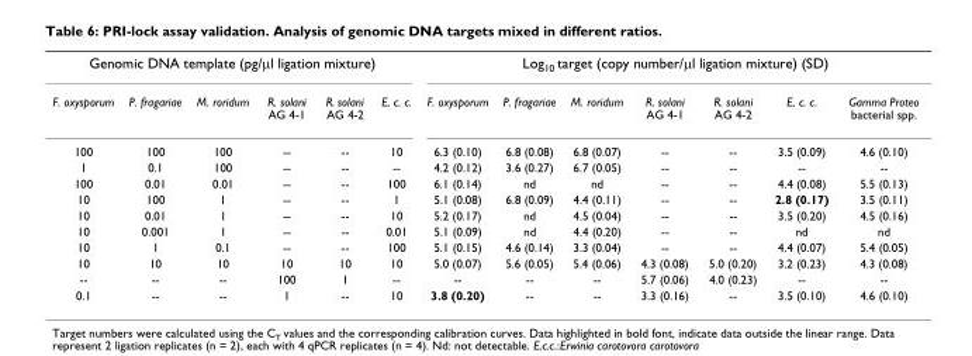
<table><tbody><tr><td colspan="6">Genomic DNA template (pg/μl ligation mixture)</td><td colspan="7">Log<sub>10</sub> target (copy number/μl ligation mixture) (SD)</td></tr><tr><td>F. oxysporum</td><td>P. fragariae</td><td>M. roridum</td><td>R. solani AG 4-1</td><td>R. solani AG 4-2</td><td>E. c. c.</td><td>F. oxysporum</td><td>P. fragariae</td><td>M. roridum</td><td>R. solani AG 4-1</td><td>R. solani AG 4-2</td><td>E. c. c.</td><td>Gamma Proteo bacterial spp.</td></tr><tr><td>100</td><td>100</td><td>100</td><td>--</td><td>--</td><td>10</td><td>6.3 (0.10)</td><td>6.8 (0.08)</td><td>6.8 (0.07)</td><td>--</td><td>--</td><td>3.5 (0.09)</td><td>4.6 (0.10)</td></tr><tr><td>1</td><td>0.1</td><td>100</td><td>--</td><td>--</td><td>--</td><td>4.2 (0.12)</td><td>3.6 (0.27)</td><td>6.7 (0.05)</td><td>--</td><td>--</td><td>--</td><td>--</td></tr><tr><td>100</td><td>0.01</td><td>0.01</td><td>--</td><td>--</td><td>100</td><td>6.1 (0.14)</td><td>nd</td><td>nd</td><td>--</td><td>--</td><td>4.4 (0.08)</td><td>5.5 (0.13)</td></tr><tr><td>10</td><td>100</td><td>1</td><td>--</td><td>--</td><td>1</td><td>5.1 (0.08)</td><td>6.8 (0.09)</td><td>4.4 (0.11)</td><td>--</td><td>--</td><td>2.8 (0.17)</td><td>3.5 (0.11)</td></tr><tr><td>10</td><td>0.01</td><td>1</td><td>--</td><td>--</td><td>10</td><td>5.2 (0.17)</td><td>nd</td><td>4.5 (0.04)</td><td>--</td><td>--</td><td>3.5 (0.20)</td><td>4.5 (0.16)</td></tr><tr><td>10</td><td>0.001</td><td>1</td><td>--</td><td>--</td><td>0.01</td><td>5.1 (0.09)</td><td>nd</td><td>4.4 (0.20)</td><td>--</td><td>--</td><td>nd</td><td>nd</td></tr><tr><td>10</td><td>1</td><td>0.1</td><td>--</td><td>--</td><td>100</td><td>5.1 (0.15)</td><td>4.6 (0.14)</td><td>3.3 (0.04)</td><td>--</td><td>--</td><td>4.4 (0.07)</td><td>5.4 (0.05)</td></tr><tr><td>10</td><td>10</td><td>10</td><td>10</td><td>10</td><td>10</td><td>5.0 (0.07)</td><td>5.6 (0.05)</td><td>5.4 (0.06)</td><td>4.3 (0.08)</td><td>5.0 (0.20)</td><td>3.2 (0.23)</td><td>4.3 (0.08)</td></tr><tr><td>--</td><td>--</td><td>--</td><td>100</td><td>1</td><td>--</td><td>--</td><td>--</td><td>--</td><td>5.7 (0.06)</td><td>4.0 (0.23)</td><td>--</td><td>--</td></tr><tr><td>0.1</td><td>--</td><td>--</td><td>1</td><td>--</td><td>10</td><td>3.8 (0.20)</td><td>--</td><td>--</td><td>3.3 (0.16)</td><td>--</td><td>3.5 (0.10)</td><td>4.6 (0.10)</td></tr></tbody></table>